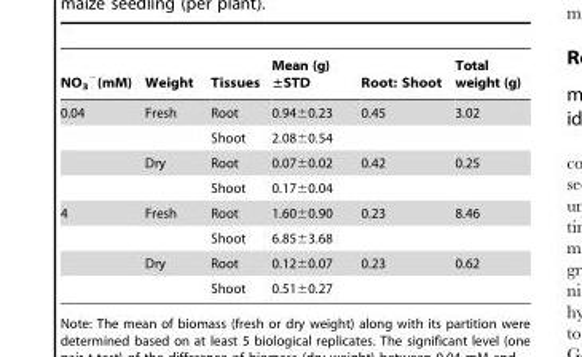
<table><thead><tr><td>NO<sub>3</sub> <sup>−</sup>(mM)</td><td>Weight</td><td>Tissues</td><td>Mean (g) ±STD</td><td>Root: Shoot</td><td>Total weight (g)</td></tr></thead><tbody><tr><td rowspan="4">0.04</td><td>Fresh</td><td>Root</td><td>0.94±0.23</td><td>0.45</td><td>3.02</td></tr><tr><td></td><td>Shoot</td><td>2.08±0.54</td><td></td><td></td></tr><tr><td>Dry</td><td>Root</td><td>0.07±0.02</td><td>0.42</td><td>0.25</td></tr><tr><td></td><td>Shoot</td><td>0.17±0.04</td><td></td><td></td></tr><tr><td rowspan="4">4</td><td>Fresh</td><td>Root</td><td>1.60±0.90</td><td>0.23</td><td>8.46</td></tr><tr><td></td><td>Shoot</td><td>6.85±3.68</td><td></td><td></td></tr><tr><td>Dry</td><td>Root</td><td>0.12±0.07</td><td>0.23</td><td>0.62</td></tr><tr><td></td><td>Shoot</td><td>0.51±0.27</td><td></td><td></td></tr></tbody></table>